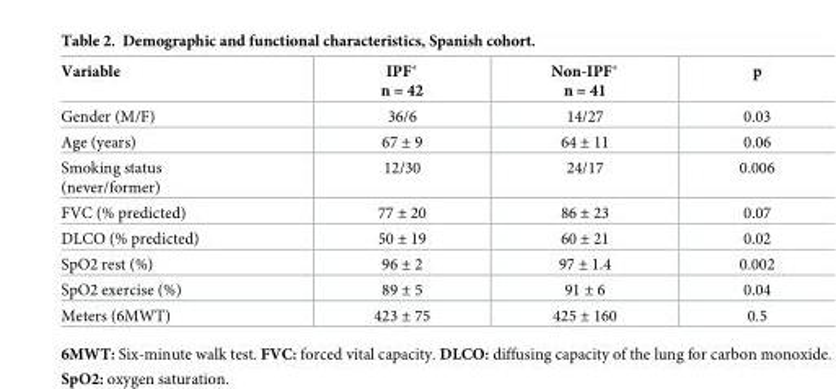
<table><thead><tr><td>Variable</td><td>IPF* n = 42</td><td>Non-IPF* n = 41</td><td>p</td></tr></thead><tbody><tr><td>Gender (M/F)</td><td>36/6</td><td>14/27</td><td>0.03</td></tr><tr><td>Age (years)</td><td>67 ± 9</td><td>64 ± 11</td><td>0.06</td></tr><tr><td>Smoking status (never/former)</td><td>12/30</td><td>24/17</td><td>0.006</td></tr><tr><td>FVC (% predicted)</td><td>77 ± 20</td><td>86 ± 23</td><td>0.07</td></tr><tr><td>DLCO (% predicted)</td><td>50 ± 19</td><td>60 ± 21</td><td>0.02</td></tr><tr><td>SpO2 rest (%)</td><td>96 ± 2</td><td>97 ± 1.4</td><td>0.002</td></tr><tr><td>SpO2 exercise (%)</td><td>89 ± 5</td><td>91 ± 6</td><td>0.04</td></tr><tr><td>Meters (6MWT)</td><td>423 ± 75</td><td>425 ± 160</td><td>0.5</td></tr></tbody></table>